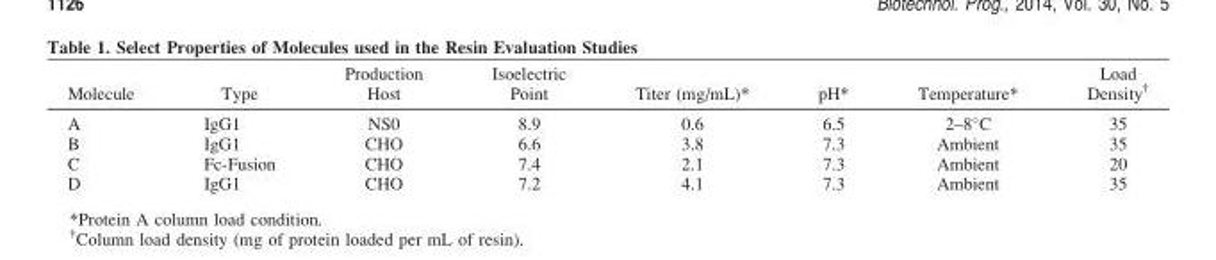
<table><thead><tr><td>Molecule</td><td>Type</td><td>Production Host</td><td>Isoelectric Point</td><td>Titer (mg/mL)*</td><td>pH*</td><td>Temperature*</td><td>Load Density†</td></tr></thead><tbody><tr><td>A</td><td>IgG1</td><td>NS0</td><td>8.9</td><td>0.6</td><td>6.5</td><td>2–8°C</td><td>35</td></tr><tr><td>B</td><td>IgG1</td><td>CHO</td><td>6.6</td><td>3.8</td><td>7.3</td><td>Ambient</td><td>35</td></tr><tr><td>C</td><td>Fc-Fusion</td><td>CHO</td><td>7.4</td><td>2.1</td><td>7.3</td><td>Ambient</td><td>20</td></tr><tr><td>D</td><td>IgG1</td><td>CHO</td><td>7.2</td><td>4.1</td><td>7.3</td><td>Ambient</td><td>35</td></tr></tbody></table>